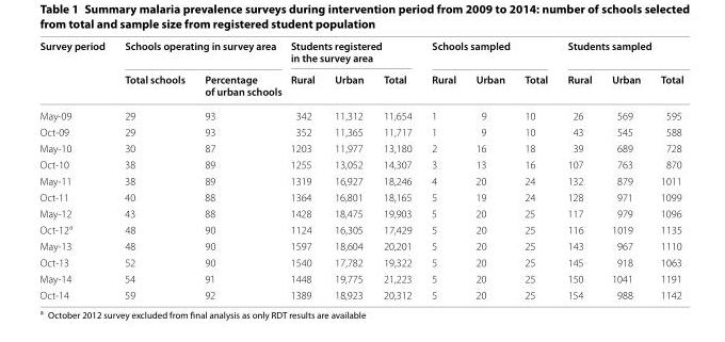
<table><thead><tr><td rowspan="2">Survey period</td><td colspan="2">Schools operating in survey area</td><td colspan="3">Students registered in the survey area</td><td colspan="3">Schools sampled</td><td colspan="3">Students sampled</td></tr><tr><td>Total schools</td><td>Percentage of urban schools</td><td>Rural</td><td>Urban</td><td>Total</td><td>Rural</td><td>Urban</td><td>Total</td><td>Rural</td><td>Urban</td><td>Total</td></tr></thead><tbody><tr><td>May‑09</td><td>29</td><td>93</td><td>342</td><td>11,312</td><td>11,654</td><td>1</td><td>9</td><td>10</td><td>26</td><td>569</td><td>595</td></tr><tr><td>Oct‑09</td><td>29</td><td>93</td><td>352</td><td>11,365</td><td>11,717</td><td>1</td><td>9</td><td>10</td><td>43</td><td>545</td><td>588</td></tr><tr><td>May‑10</td><td>30</td><td>87</td><td>1203</td><td>11,977</td><td>13,180</td><td>2</td><td>16</td><td>18</td><td>39</td><td>689</td><td>728</td></tr><tr><td>Oct‑10</td><td>38</td><td>89</td><td>1255</td><td>13,052</td><td>14,307</td><td>3</td><td>13</td><td>16</td><td>107</td><td>763</td><td>870</td></tr><tr><td>May‑11</td><td>38</td><td>89</td><td>1319</td><td>16,927</td><td>18,246</td><td>4</td><td>20</td><td>24</td><td>132</td><td>879</td><td>1011</td></tr><tr><td>Oct‑11</td><td>40</td><td>88</td><td>1364</td><td>16,801</td><td>18,165</td><td>5</td><td>19</td><td>24</td><td>128</td><td>971</td><td>1099</td></tr><tr><td>May‑12</td><td>43</td><td>88</td><td>1428</td><td>18,475</td><td>19,903</td><td>5</td><td>20</td><td>25</td><td>117</td><td>979</td><td>1096</td></tr><tr><td>Oct‑12<sup>a</sup></td><td>48</td><td>90</td><td>1124</td><td>16,305</td><td>17,429</td><td>5</td><td>20</td><td>25</td><td>116</td><td>1019</td><td>1135</td></tr><tr><td>May‑13</td><td>48</td><td>90</td><td>1597</td><td>18,604</td><td>20,201</td><td>5</td><td>20</td><td>25</td><td>143</td><td>967</td><td>1110</td></tr><tr><td>Oct‑13</td><td>52</td><td>90</td><td>1540</td><td>17,782</td><td>19,322</td><td>5</td><td>20</td><td>25</td><td>145</td><td>918</td><td>1063</td></tr><tr><td>May‑14</td><td>54</td><td>91</td><td>1448</td><td>19,775</td><td>21,223</td><td>5</td><td>20</td><td>25</td><td>150</td><td>1041</td><td>1191</td></tr><tr><td>Oct‑14</td><td>59</td><td>92</td><td>1389</td><td>18,923</td><td>20,312</td><td>5</td><td>20</td><td>25</td><td>154</td><td>988</td><td>1142</td></tr></tbody></table>